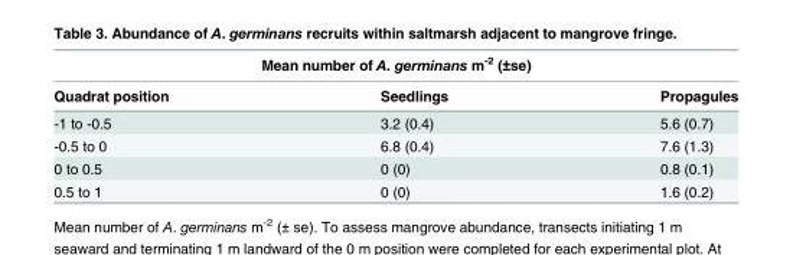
<table><thead><tr><td colspan="3">Mean number of A. germinans m<sup>-2</sup> (±se)</td></tr><tr><td>Quadrat position</td><td>Seedlings</td><td>Propagules</td></tr></thead><tbody><tr><td>-1 to -0.5</td><td>3.2 (0.4)</td><td>5.6 (0.7)</td></tr><tr><td>-0.5 to 0</td><td>6.8 (0.4)</td><td>7.6 (1.3)</td></tr><tr><td>0 to 0.5</td><td>0 (0)</td><td>0.8 (0.1)</td></tr><tr><td>0.5 to 1</td><td>0 (0)</td><td>1.6 (0.2)</td></tr></tbody></table>